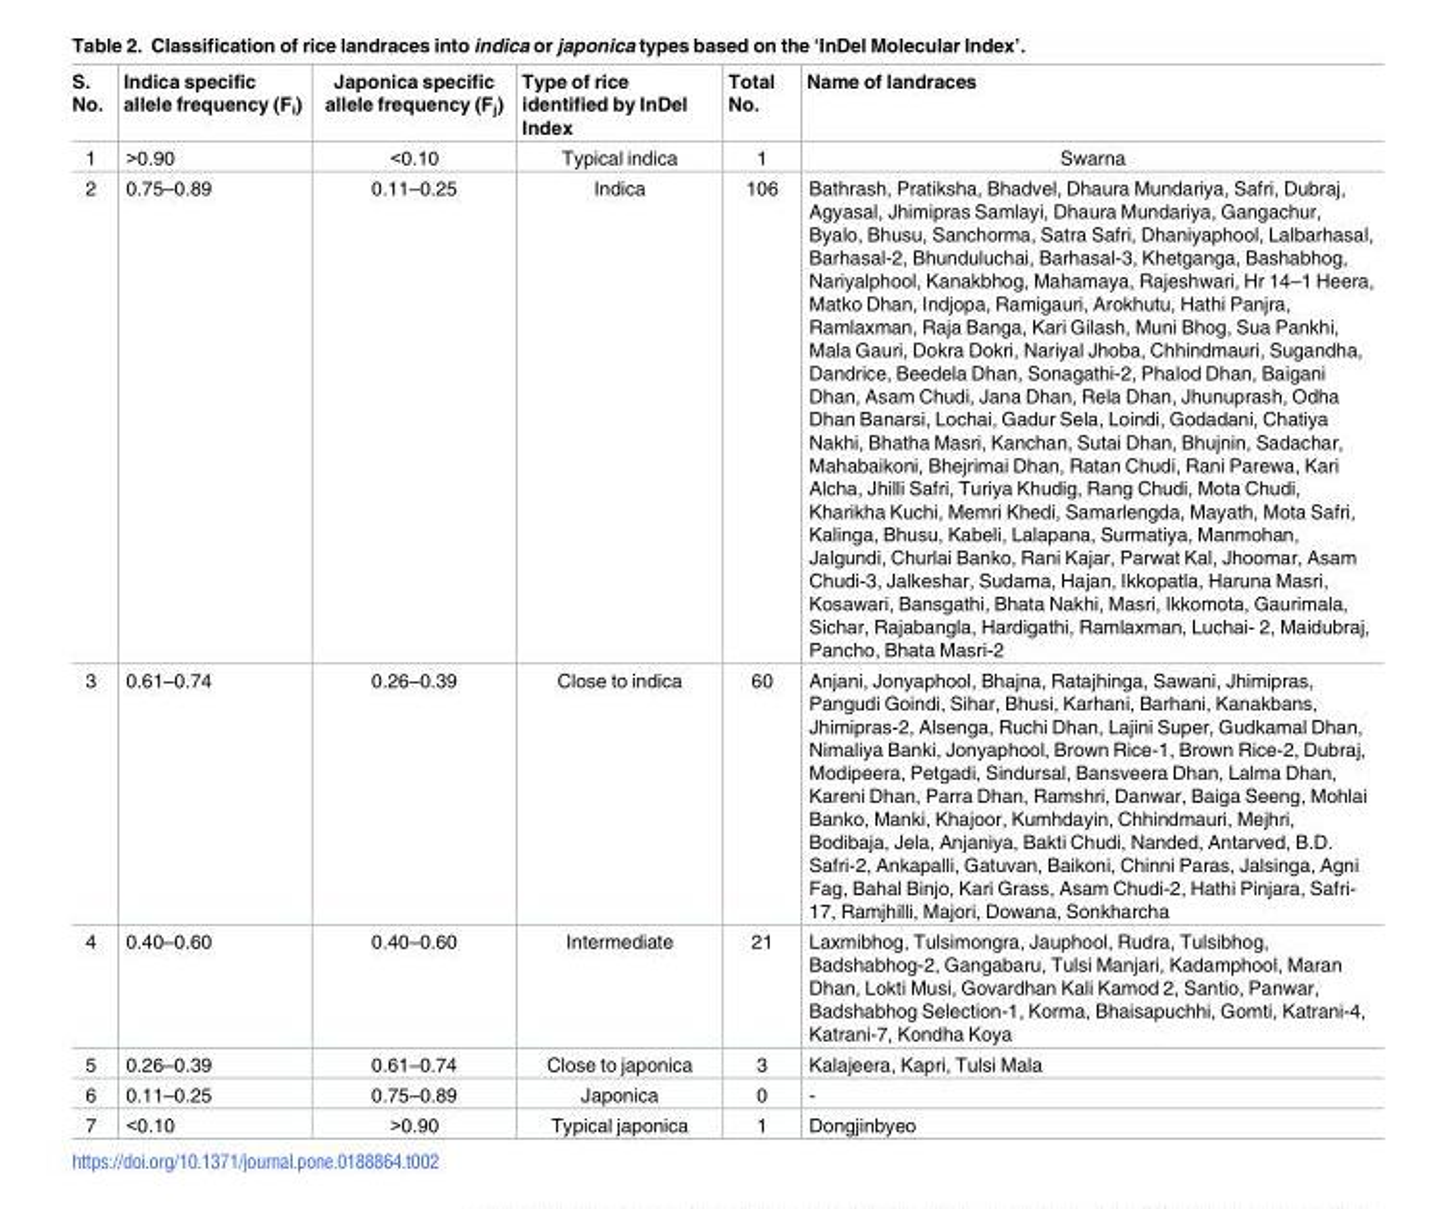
<table><thead><tr><td>S. No.</td><td>Indica specific allele frequency (F<sub>i</sub>)</td><td>Japonica specific allele frequency (F<sub>j</sub>)</td><td>Type of rice identified by InDel Index</td><td>Total No.</td><td>Name of landraces</td></tr></thead><tbody><tr><td>1</td><td>&gt;0.90</td><td>&lt;0.10</td><td>Typical indica</td><td>1</td><td>Swarna</td></tr><tr><td>2</td><td>0.75–0.89</td><td>0.11–0.25</td><td>Indica</td><td>106</td><td>Bathrash, Pratiksha, Bhadvel, Dhaura Mundariya, Safri, Dubraj, Agyasal, Jhimipras Samlayi, Dhaura Mundariya, Gangachur, Byalo, Bhusu, Sanchorma, Satra Safri, Dhaniyaphool, Lalbarhasal, Barhasal-2, Bhunduluchai, Barhasal-3, Khetganga, Bashabhog, Nariyalphool, Kanakbhog, Mahamaya, Rajeshwari, Hr 14–1 Heera, Matko Dhan, Indjopa, Ramigauri, Arokhutu, Hathi Panjra, Ramlaxman, Raja Banga, Kari Gilash, Muni Bhog, Sua Pankhi, Mala Gauri, Dokra Dokri, Nariyal Jhoba, Chhindmauri, Sugandha, Dandrice, Beedela Dhan, Sonagathi-2, Phalod Dhan, Baigani Dhan, Asam Chudi, Jana Dhan, Rela Dhan, Jhunuprash, Odha Dhan Banarsi, Lochai, Gadur Sela, Loindi, Godadani, Chatiya Nakhi, Bhatha Masri, Kanchan, Sutai Dhan, Bhujnin, Sadachar, Mahabaikoni, Bhejrimai Dhan, Ratan Chudi, Rani Parewa, Kari Alcha, Jhilli Safri, Turiya Khudig, Rang Chudi, Mota Chudi, Kharikha Kuchi, Memri Khedi, Samarlengda, Mayath, Mota Safri, Kalinga, Bhusu, Kabeli, Lalapana, Surmatiya, Manmohan, Jalgundi, Churlai Banko, Rani Kajar, Parwat Kal, Jhoomar, Asam Chudi-3, Jalkeshar, Sudama, Hajan, Ikkopatla, Haruna Masri, Kosawari, Bansgathi, Bhata Nakhi, Masri, Ikkomota, Gaurimala, Sichar, Rajabangla, Hardigathi, Ramlaxman, Luchai- 2, Maidubraj, Pancho, Bhata Masri-2</td></tr><tr><td>3</td><td>0.61–0.74</td><td>0.26–0.39</td><td>Close to indica</td><td>60</td><td>Anjani, Jonyaphool, Bhajna, Ratajhinga, Sawani, Jhimipras, Pangudi Goindi, Sihar, Bhusi, Karhani, Barhani, Kanakbans, Jhimipras-2, Alsenga, Ruchi Dhan, Lajini Super, Gudkamal Dhan, Nimaliya Banki, Jonyaphool, Brown Rice-1, Brown Rice-2, Dubraj, Modipeera, Petgadi, Sindursal, Bansveera Dhan, Lalma Dhan, Kareni Dhan, Parra Dhan, Ramshri, Danwar, Baiga Seeng, Mohlai Banko, Manki, Khajoor, Kumhdayin, Chhindmauri, Mejhri, Bodibaja, Jela, Anjaniya, Bakti Chudi, Nanded, Antarved, B.D. Safri-2, Ankapalli, Gatuvan, Baikoni, Chinni Paras, Jalsinga, Agni Fag, Bahal Binjo, Kari Grass, Asam Chudi-2, Hathi Pinjara, Safri- 17, Ramjhilli, Majori, Dowana, Sonkharcha</td></tr><tr><td>4</td><td>0.40–0.60</td><td>0.40–0.60</td><td>Intermediate</td><td>21</td><td>Laxmibhog, Tulsimongra, Jauphool, Rudra, Tulsibhog, Badshabhog-2, Gangabaru, Tulsi Manjari, Kadamphool, Maran Dhan, Lokti Musi, Govardhan Kali Kamod 2, Santio, Panwar, Badshabhog Selection-1, Korma, Bhaisapuchhi, Gomti, Katrani-4, Katrani-7, Kondha Koya</td></tr><tr><td>5</td><td>0.26–0.39</td><td>0.61–0.74</td><td>Close to japonica</td><td>3</td><td>Kalajeera, Kapri, Tulsi Mala</td></tr><tr><td>6</td><td>0.11–0.25</td><td>0.75–0.89</td><td>Japonica</td><td>0</td><td>-</td></tr><tr><td>7</td><td>&lt;0.10</td><td>&gt;0.90</td><td>Typical japonica</td><td>1</td><td>Dongjinbyeo</td></tr></tbody></table>